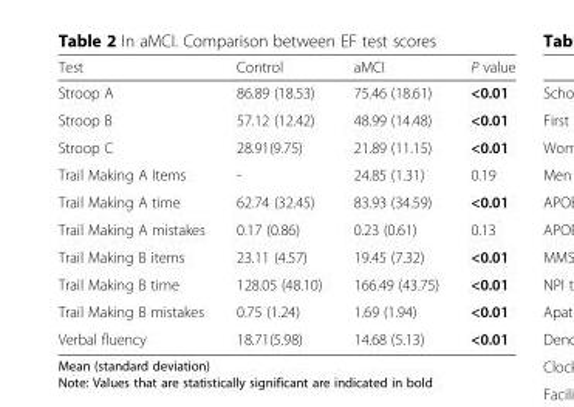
<table><thead><tr><td>Test</td><td>Control</td><td>aMCI</td><td>P value</td></tr></thead><tbody><tr><td>Stroop A</td><td>86.89 (18.53)</td><td>75.46 (18.61)</td><td>&lt;0.01</td></tr><tr><td>Stroop B</td><td>57.12 (12.42)</td><td>48.99 (14.48)</td><td>&lt;0.01</td></tr><tr><td>Stroop C</td><td>28.91(9.75)</td><td>21.89 (11.15)</td><td>&lt;0.01</td></tr><tr><td>Trail Making A Items</td><td>-</td><td>24.85 (1.31)</td><td>0.19</td></tr><tr><td>Trail Making A time</td><td>62.74 (32.45)</td><td>83.93 (34.59)</td><td>&lt;0.01</td></tr><tr><td>Trail Making A mistakes</td><td>0.17 (0.86)</td><td>0.23 (0.61)</td><td>0.13</td></tr><tr><td>Trail Making B items</td><td>23.11 (4.57)</td><td>19.45 (7.32)</td><td>&lt;0.01</td></tr><tr><td>Trail Making B time</td><td>128.05 (48.10)</td><td>166.49 (43.75)</td><td>&lt;0.01</td></tr><tr><td>Trail Making B mistakes</td><td>0.75 (1.24)</td><td>1.69 (1.94)</td><td>&lt;0.01</td></tr><tr><td>Verbal fluency</td><td>18.71(5.98)</td><td>14.68 (5.13)</td><td>&lt;0.01</td></tr></tbody></table>